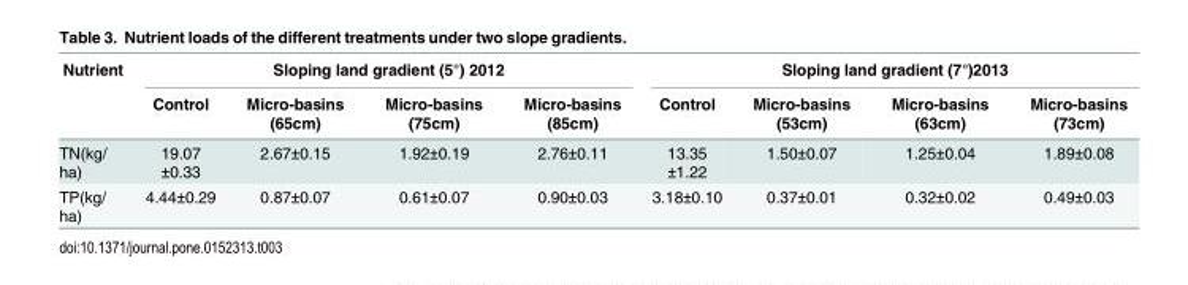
<table><thead><tr><td rowspan="2">Nutrient</td><td colspan="4">Sloping land gradient (5°) 2012</td><td colspan="4">Sloping land gradient (7°)2013</td></tr><tr><td>Control</td><td>Micro-basins (65cm)</td><td>Micro-basins (75cm)</td><td>Micro-basins (85cm)</td><td>Control</td><td>Micro-basins (53cm)</td><td>Micro-basins (63cm)</td><td>Micro-basins (73cm)</td></tr></thead><tbody><tr><td>TN(kg/ ha)</td><td>19.07 ±0.33</td><td>2.67±0.15</td><td>1.92±0.19</td><td>2.76±0.11</td><td>13.35 ±1.22</td><td>1.50±0.07</td><td>1.25±0.04</td><td>1.89±0.08</td></tr><tr><td>TP(kg/ ha)</td><td>4.44±0.29</td><td>0.87±0.07</td><td>0.61±0.07</td><td>0.90±0.03</td><td>3.18±0.10</td><td>0.37±0.01</td><td>0.32±0.02</td><td>0.49±0.03</td></tr></tbody></table>